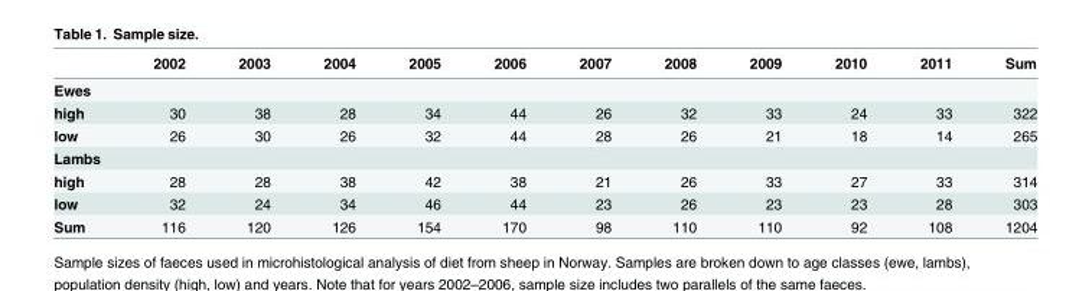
<table><thead><tr><td></td><td>2002</td><td>2003</td><td>2004</td><td>2005</td><td>2006</td><td>2007</td><td>2008</td><td>2009</td><td>2010</td><td>2011</td><td>Sum</td></tr></thead><tbody><tr><td colspan="12">Ewes</td></tr><tr><td>high</td><td>30</td><td>38</td><td>28</td><td>34</td><td>44</td><td>26</td><td>32</td><td>33</td><td>24</td><td>33</td><td>322</td></tr><tr><td>low</td><td>26</td><td>30</td><td>26</td><td>32</td><td>44</td><td>28</td><td>26</td><td>21</td><td>18</td><td>14</td><td>265</td></tr><tr><td colspan="12">Lambs</td></tr><tr><td>high</td><td>28</td><td>28</td><td>38</td><td>42</td><td>38</td><td>21</td><td>26</td><td>33</td><td>27</td><td>33</td><td>314</td></tr><tr><td>low</td><td>32</td><td>24</td><td>34</td><td>46</td><td>44</td><td>23</td><td>26</td><td>23</td><td>23</td><td>28</td><td>303</td></tr><tr><td>Sum</td><td>116</td><td>120</td><td>126</td><td>154</td><td>170</td><td>98</td><td>110</td><td>110</td><td>92</td><td>108</td><td>1204</td></tr></tbody></table>